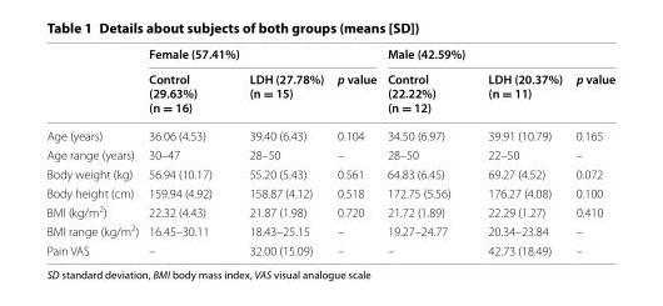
<table><thead><tr><td rowspan="2"></td><td colspan="3">Female (57.41%)</td><td colspan="3">Male (42.59%)</td></tr><tr><td>Control (29.63%) (n = 16)</td><td>LDH (27.78%) (n = 15)</td><td>p value</td><td>Control (22.22%) (n = 12)</td><td>LDH (20.37%) (n = 11)</td><td>p value</td></tr></thead><tbody><tr><td>Age (years)</td><td>36.06 (4.53)</td><td>39.40 (6.43)</td><td>0.104</td><td>34.50 (6.97)</td><td>39.91 (10.79)</td><td>0.165</td></tr><tr><td>Age range (years)</td><td>30–47</td><td>28–50</td><td>–</td><td>28–50</td><td>22–50</td><td>–</td></tr><tr><td>Body weight (kg)</td><td>56.94 (10.17)</td><td>55.20 (5.43)</td><td>0.561</td><td>64.83 (6.45)</td><td>69.27 (4.52)</td><td>0.072</td></tr><tr><td>Body height (cm)</td><td>159.94 (4.92)</td><td>158.87 (4.12)</td><td>0.518</td><td>172.75 (5.56)</td><td>176.27 (4.08)</td><td>0.100</td></tr><tr><td>BMI (kg/m<sup>2</sup>)</td><td>22.32 (4.43)</td><td>21.87 (1.98)</td><td>0.720</td><td>21.72 (1.89)</td><td>22.29 (1.27)</td><td>0.410</td></tr><tr><td>BMI range (kg/m<sup>2</sup>)</td><td>16.45–30.11</td><td>18.43–25.15</td><td>–</td><td>19.27–24.77</td><td>20.34–23.84</td><td>–</td></tr><tr><td>Pain VAS</td><td>–</td><td>32.00 (15.09)</td><td>–</td><td>–</td><td>42.73 (18.49)</td><td>–</td></tr></tbody></table>